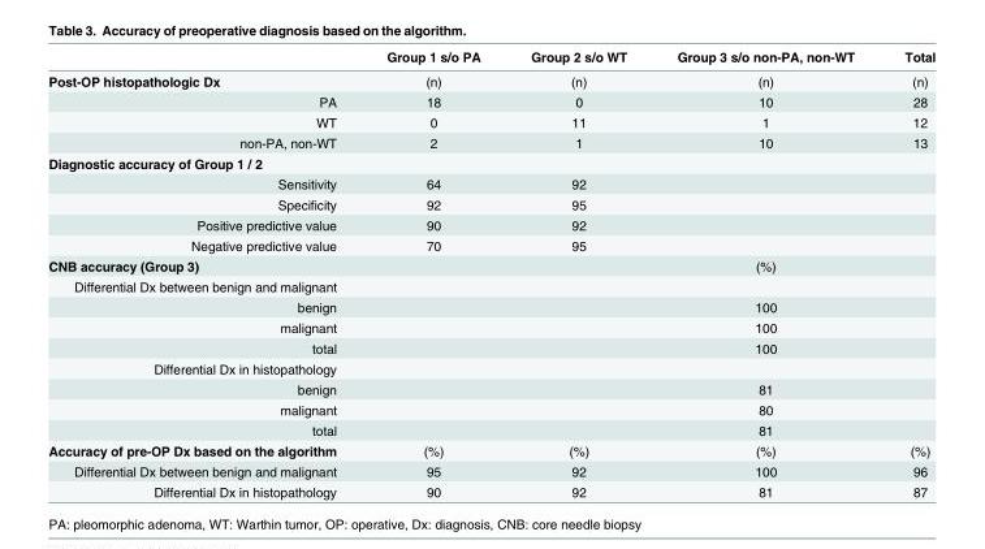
<table><thead><tr><td></td><td>Group 1 s/o PA</td><td>Group 2 s/o WT</td><td>Group 3 s/o non-PA, non-WT</td><td>Total</td></tr></thead><tbody><tr><td>Post-OP histopathologic Dx</td><td>(n)</td><td>(n)</td><td>(n)</td><td>(n)</td></tr><tr><td>PA</td><td>18</td><td>0</td><td>10</td><td>28</td></tr><tr><td>WT</td><td>0</td><td>11</td><td>1</td><td>12</td></tr><tr><td>non-PA, non-WT</td><td>2</td><td>1</td><td>10</td><td>13</td></tr><tr><td colspan="5">Diagnostic accuracy of Group 1 / 2</td></tr><tr><td>Sensitivity</td><td>64</td><td>92</td><td>―</td><td>―</td></tr><tr><td>Specificity</td><td>92</td><td>95</td><td>―</td><td>―</td></tr><tr><td>Positive predictive value</td><td>90</td><td>92</td><td>―</td><td>―</td></tr><tr><td>Negative predictive value</td><td>70</td><td>95</td><td>―</td><td>―</td></tr><tr><td>CNB accuracy (Group 3)</td><td></td><td></td><td>(%)</td><td></td></tr><tr><td colspan="5">Differential Dx between benign and malignant</td></tr><tr><td>benign</td><td>―</td><td>―</td><td>100</td><td>―</td></tr><tr><td>malignant</td><td>―</td><td>―</td><td>100</td><td>―</td></tr><tr><td>total</td><td>―</td><td>―</td><td>100</td><td>―</td></tr><tr><td colspan="5">Differential Dx in histopathology</td></tr><tr><td>benign</td><td>―</td><td>―</td><td>81</td><td>―</td></tr><tr><td>malignant</td><td>―</td><td>―</td><td>80</td><td>―</td></tr><tr><td>total</td><td>―</td><td>―</td><td>81</td><td>―</td></tr><tr><td>Accuracy of pre-OP Dx based on the algorithm</td><td>(%)</td><td>(%)</td><td>(%)</td><td>(%)</td></tr><tr><td>Differential Dx between benign and malignant</td><td>95</td><td>92</td><td>100</td><td>96</td></tr><tr><td>Differential Dx in histopathology</td><td>90</td><td>92</td><td>81</td><td>87</td></tr></tbody></table>